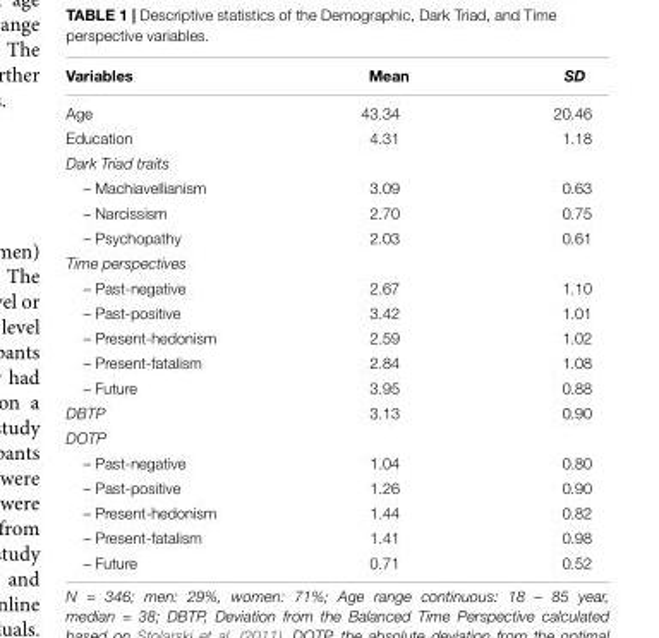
<table><thead><tr><td>Variables</td><td>Mean</td><td>SD</td></tr></thead><tbody><tr><td>Age</td><td>43.34</td><td>20.46</td></tr><tr><td>Education</td><td>4.31</td><td>1.18</td></tr><tr><td colspan="3">Dark Triad traits</td></tr><tr><td>– Machiavellianism</td><td>3.09</td><td>0.63</td></tr><tr><td>– Narcissism</td><td>2.70</td><td>0.75</td></tr><tr><td>– Psychopathy</td><td>2.03</td><td>0.61</td></tr><tr><td colspan="3">Time perspectives</td></tr><tr><td>– Past-negative</td><td>2.67</td><td>1.10</td></tr><tr><td>– Past-positive</td><td>3.42</td><td>1.01</td></tr><tr><td>– Present-hedonism</td><td>2.59</td><td>1.02</td></tr><tr><td>– Present-fatalism</td><td>2.84</td><td>1.08</td></tr><tr><td>– Future</td><td>3.95</td><td>0.88</td></tr><tr><td>DBTP</td><td>3.13</td><td>0.90</td></tr><tr><td colspan="3">DOTP</td></tr><tr><td>– Past-negative</td><td>1.04</td><td>0.80</td></tr><tr><td>– Past-positive</td><td>1.26</td><td>0.90</td></tr><tr><td>– Present-hedonism</td><td>1.44</td><td>0.82</td></tr><tr><td>– Present-fatalism</td><td>1.41</td><td>0.98</td></tr><tr><td>– Future</td><td>0.71</td><td>0.52</td></tr></tbody></table>